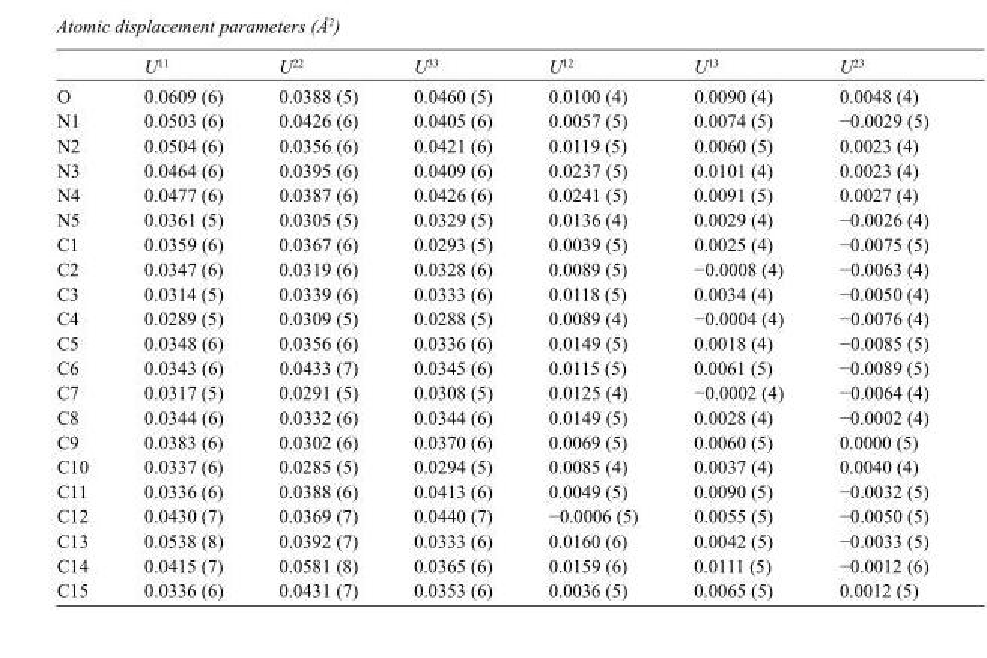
<table><thead><tr><td></td><td>U<sup>11</sup></td><td>U<sup>22</sup></td><td>U<sup>33</sup></td><td>U<sup>12</sup></td><td>U<sup>13</sup></td><td>U<sup>23</sup></td></tr></thead><tbody><tr><td>O</td><td>0.0609 (6)</td><td>0.0388 (5)</td><td>0.0460 (5)</td><td>0.0100 (4)</td><td>0.0090 (4)</td><td>0.0048 (4)</td></tr><tr><td>N1</td><td>0.0503 (6)</td><td>0.0426 (6)</td><td>0.0405 (6)</td><td>0.0057 (5)</td><td>0.0074 (5)</td><td>−0.0029 (5)</td></tr><tr><td>N2</td><td>0.0504 (6)</td><td>0.0356 (6)</td><td>0.0421 (6)</td><td>0.0119 (5)</td><td>0.0060 (5)</td><td>0.0023 (4)</td></tr><tr><td>N3</td><td>0.0464 (6)</td><td>0.0395 (6)</td><td>0.0409 (6)</td><td>0.0237 (5)</td><td>0.0101 (4)</td><td>0.0023 (4)</td></tr><tr><td>N4</td><td>0.0477 (6)</td><td>0.0387 (6)</td><td>0.0426 (6)</td><td>0.0241 (5)</td><td>0.0091 (5)</td><td>0.0027 (4)</td></tr><tr><td>N5</td><td>0.0361 (5)</td><td>0.0305 (5)</td><td>0.0329 (5)</td><td>0.0136 (4)</td><td>0.0029 (4)</td><td>−0.0026 (4)</td></tr><tr><td>C1</td><td>0.0359 (6)</td><td>0.0367 (6)</td><td>0.0293 (5)</td><td>0.0039 (5)</td><td>0.0025 (4)</td><td>−0.0075 (5)</td></tr><tr><td>C2</td><td>0.0347 (6)</td><td>0.0319 (6)</td><td>0.0328 (6)</td><td>0.0089 (5)</td><td>−0.0008 (4)</td><td>−0.0063 (4)</td></tr><tr><td>C3</td><td>0.0314 (5)</td><td>0.0339 (6)</td><td>0.0333 (6)</td><td>0.0118 (5)</td><td>0.0034 (4)</td><td>−0.0050 (4)</td></tr><tr><td>C4</td><td>0.0289 (5)</td><td>0.0309 (5)</td><td>0.0288 (5)</td><td>0.0089 (4)</td><td>−0.0004 (4)</td><td>−0.0076 (4)</td></tr><tr><td>C5</td><td>0.0348 (6)</td><td>0.0356 (6)</td><td>0.0336 (6)</td><td>0.0149 (5)</td><td>0.0018 (4)</td><td>−0.0085 (5)</td></tr><tr><td>C6</td><td>0.0343 (6)</td><td>0.0433 (7)</td><td>0.0345 (6)</td><td>0.0115 (5)</td><td>0.0061 (5)</td><td>−0.0089 (5)</td></tr><tr><td>C7</td><td>0.0317 (5)</td><td>0.0291 (5)</td><td>0.0308 (5)</td><td>0.0125 (4)</td><td>−0.0002 (4)</td><td>−0.0064 (4)</td></tr><tr><td>C8</td><td>0.0344 (6)</td><td>0.0332 (6)</td><td>0.0344 (6)</td><td>0.0149 (5)</td><td>0.0028 (4)</td><td>−0.0002 (4)</td></tr><tr><td>C9</td><td>0.0383 (6)</td><td>0.0302 (6)</td><td>0.0370 (6)</td><td>0.0069 (5)</td><td>0.0060 (5)</td><td>0.0000 (5)</td></tr><tr><td>C10</td><td>0.0337 (6)</td><td>0.0285 (5)</td><td>0.0294 (5)</td><td>0.0085 (4)</td><td>0.0037 (4)</td><td>0.0040 (4)</td></tr><tr><td>C11</td><td>0.0336 (6)</td><td>0.0388 (6)</td><td>0.0413 (6)</td><td>0.0049 (5)</td><td>0.0090 (5)</td><td>−0.0032 (5)</td></tr><tr><td>C12</td><td>0.0430 (7)</td><td>0.0369 (7)</td><td>0.0440 (7)</td><td>−0.0006 (5)</td><td>0.0055 (5)</td><td>−0.0050 (5)</td></tr><tr><td>C13</td><td>0.0538 (8)</td><td>0.0392 (7)</td><td>0.0333 (6)</td><td>0.0160 (6)</td><td>0.0042 (5)</td><td>−0.0033 (5)</td></tr><tr><td>C14</td><td>0.0415 (7)</td><td>0.0581 (8)</td><td>0.0365 (6)</td><td>0.0159 (6)</td><td>0.0111 (5)</td><td>−0.0012 (6)</td></tr><tr><td>C15</td><td>0.0336 (6)</td><td>0.0431 (7)</td><td>0.0353 (6)</td><td>0.0036 (5)</td><td>0.0065 (5)</td><td>0.0012 (5)</td></tr></tbody></table>